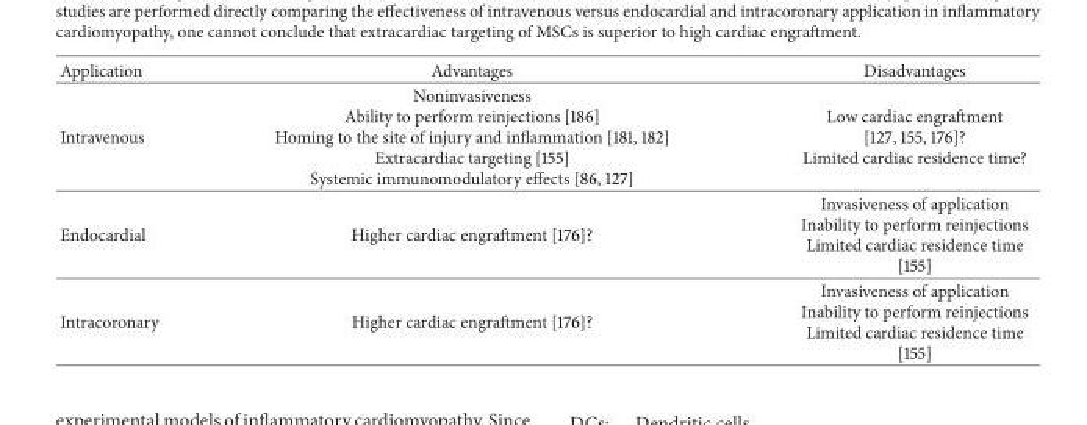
<table><thead><tr><td>Application</td><td>Advantages</td><td>Disadvantages</td></tr></thead><tbody><tr><td>Intravenous</td><td>Noninvasiveness Ability to perform reinjections [186] Homing to the site of injury and inflammation [181, 182] Extracardiac targeting [155] Systemic immunomodulatory effects [86, 127]</td><td>Low cardiac engraftment [127, 155, 176]? Limited cardiac residence time?</td></tr><tr><td>Endocardial</td><td>Higher cardiac engraftment [176]?</td><td>Invasiveness of application Inability to perform reinjections Limited cardiac residence time [155]</td></tr><tr><td>Intracoronary</td><td>Higher cardiac engraftment [176]?</td><td>Invasiveness of application Inability to perform reinjections Limited cardiac residence time [155]</td></tr></tbody></table>